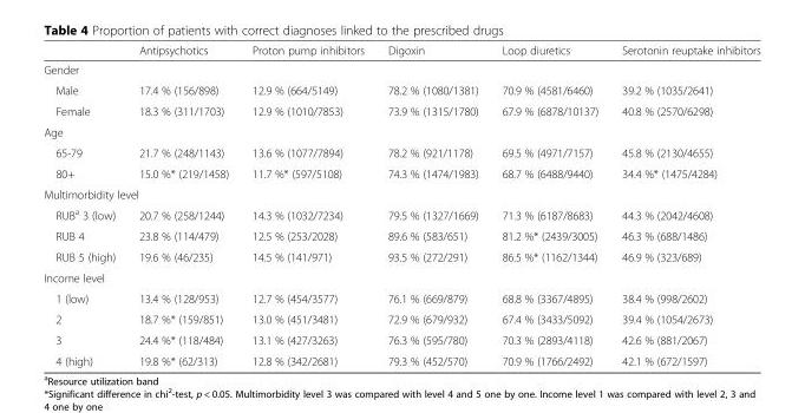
<table><thead><tr><td></td><td>Antipsychotics</td><td>Proton pump inhibitors</td><td>Digoxin</td><td>Loop diuretics</td><td>Serotonin reuptake inhibitors</td></tr></thead><tbody><tr><td colspan="6">Gender</td></tr><tr><td>Male</td><td>17.4 % (156/898)</td><td>12.9 % (664/5149)</td><td>78.2 % (1080/1381)</td><td>70.9 % (4581/6460)</td><td>39.2 % (1035/2641)</td></tr><tr><td>Female</td><td>18.3 % (311/1703)</td><td>12.9 % (1010/7853)</td><td>73.9 % (1315/1780)</td><td>67.9 % (6878/10137)</td><td>40.8 % (2570/6298)</td></tr><tr><td colspan="6">Age</td></tr><tr><td>65-79</td><td>21.7 % (248/1143)</td><td>13.6 % (1077/7894)</td><td>78.2 % (921/1178)</td><td>69.5 % (4971/7157)</td><td>45.8 % (2130/4655)</td></tr><tr><td>80+</td><td>15.0 %* (219/1458)</td><td>11.7 %* (597/5108)</td><td>74.3 % (1474/1983)</td><td>68.7 % (6488/9440)</td><td>34.4 %* (1475/4284)</td></tr><tr><td colspan="6">Multimorbidity level</td></tr><tr><td>RUB<sup>a</sup> 3 (low)</td><td>20.7 % (258/1244)</td><td>14.3 % (1032/7234)</td><td>79.5 % (1327/1669)</td><td>71.3 % (6187/8683)</td><td>44.3 % (2042/4608)</td></tr><tr><td>RUB 4</td><td>23.8 % (114/479)</td><td>12.5 % (253/2028)</td><td>89.6 % (583/651)</td><td>81.2 %* (2439/3005)</td><td>46.3 % (688/1486)</td></tr><tr><td>RUB 5 (high)</td><td>19.6 % (46/235)</td><td>14.5 % (141/971)</td><td>93.5 % (272/291)</td><td>86.5 %* (1162/1344)</td><td>46.9 % (323/689)</td></tr><tr><td colspan="6">Income level</td></tr><tr><td>1 (low)</td><td>13.4 % (128/953)</td><td>12.7 % (454/3577)</td><td>76.1 % (669/879)</td><td>68.8 % (3367/4895)</td><td>38.4 % (998/2602)</td></tr><tr><td>2</td><td>18.7 %* (159/851)</td><td>13.0 % (451/3481)</td><td>72.9 % (679/932)</td><td>67.4 % (3433/5092)</td><td>39.4 % (1054/2673)</td></tr><tr><td>3</td><td>24.4 %* (118/484)</td><td>13.1 % (427/3263)</td><td>76.3 % (595/780)</td><td>70.3 % (2893/4118)</td><td>42.6 % (881/2067)</td></tr><tr><td>4 (high)</td><td>19.8 %* (62/313)</td><td>12.8 % (342/2681)</td><td>79.3 % (452/570)</td><td>70.9 % (1766/2492)</td><td>42.1 % (672/1597)</td></tr></tbody></table>